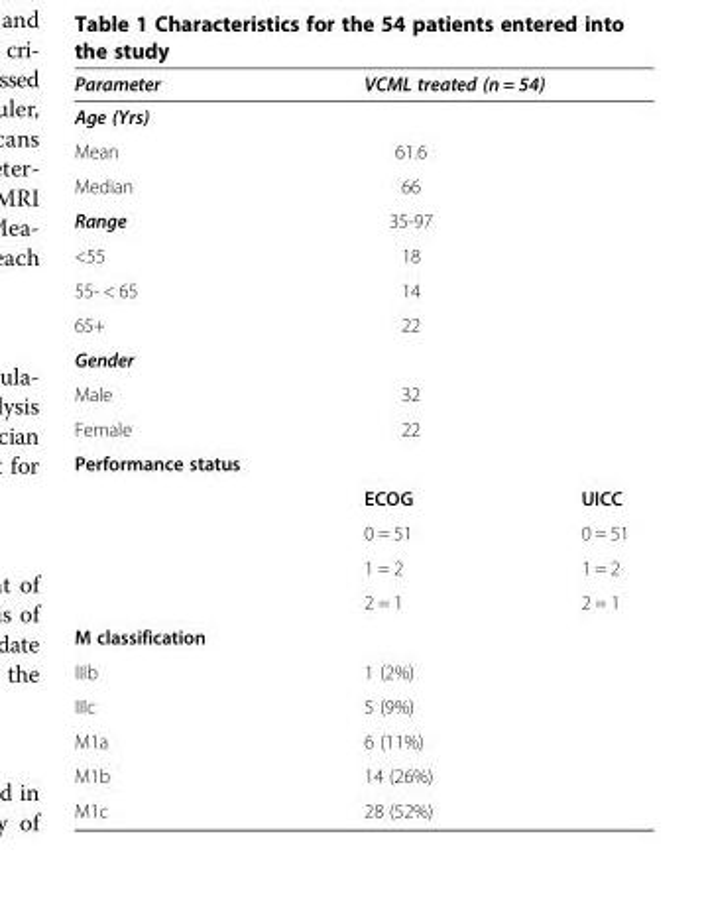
<table><thead><tr><td rowspan="2">Parameter Age (Yrs)</td><td colspan="2">VCML treated (n = 54)</td></tr><tr><td></td><td></td></tr></thead><tbody><tr><td>Mean</td><td>61.6</td><td></td></tr><tr><td>Median</td><td>66</td><td></td></tr><tr><td>Range</td><td>35-97</td><td></td></tr><tr><td>&lt;55</td><td>18</td><td></td></tr><tr><td>55- &lt; 65</td><td>14</td><td></td></tr><tr><td>65+</td><td>22</td><td></td></tr><tr><td colspan="3">Gender</td></tr><tr><td>Male</td><td>32</td><td></td></tr><tr><td>Female</td><td>22</td><td></td></tr><tr><td colspan="3">Performance status</td></tr><tr><td></td><td>ECOG</td><td>UICC</td></tr><tr><td></td><td>0 = 51</td><td>0 = 51</td></tr><tr><td></td><td>1 = 2</td><td>1 = 2</td></tr><tr><td></td><td>2 = 1</td><td>2 = 1</td></tr><tr><td colspan="3">M classification</td></tr><tr><td>IIIb</td><td>1 (2%)</td><td></td></tr><tr><td>IIIc</td><td>5 (9%)</td><td></td></tr><tr><td>M1a</td><td>6 (11%)</td><td></td></tr><tr><td>M1b</td><td>14 (26%)</td><td></td></tr><tr><td>M1c</td><td>28 (52%)</td><td></td></tr></tbody></table>